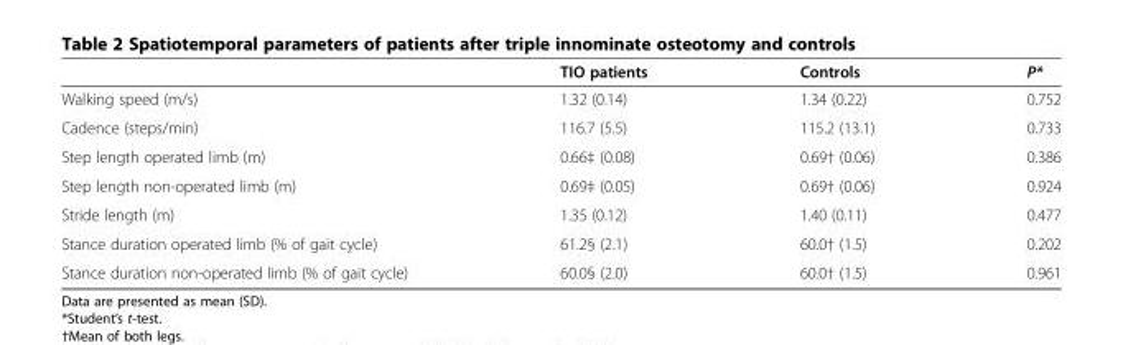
<table><thead><tr><td></td><td>TIO patients</td><td>Controls</td><td>P*</td></tr></thead><tbody><tr><td>Walking speed (m/s)</td><td>1.32 (0.14)</td><td>1.34 (0.22)</td><td>0.752</td></tr><tr><td>Cadence (steps/min)</td><td>116.7 (5.5)</td><td>115.2 (13.1)</td><td>0.733</td></tr><tr><td>Step length operated limb (m)</td><td>0.66‡ (0.08)</td><td>0.69† (0.06)</td><td>0.386</td></tr><tr><td>Step length non-operated limb (m)</td><td>0.69‡ (0.05)</td><td>0.69† (0.06)</td><td>0.924</td></tr><tr><td>Stride length (m)</td><td>1.35 (0.12)</td><td>1.40 (0.11)</td><td>0.477</td></tr><tr><td>Stance duration operated limb (% of gait cycle)</td><td>61.2§ (2.1)</td><td>60.0† (1.5)</td><td>0.202</td></tr><tr><td>Stance duration non-operated limb (% of gait cycle)</td><td>60.0§ (2.0)</td><td>60.0† (1.5)</td><td>0.961</td></tr></tbody></table>